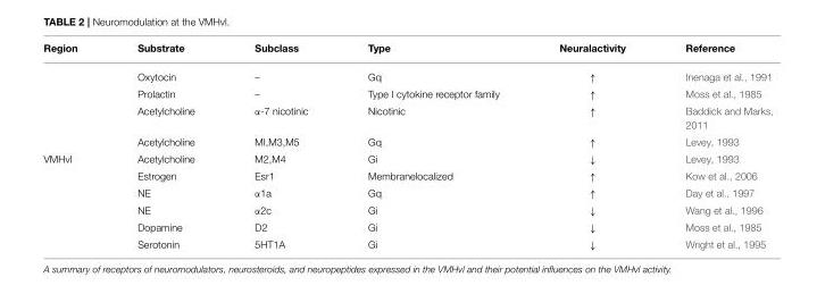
<table><thead><tr><td>Region</td><td>Substrate</td><td>Subclass</td><td>Type</td><td>Neuralactivity</td><td>Reference</td></tr></thead><tbody><tr><td></td><td>Oxytocin</td><td>–</td><td>Gq</td><td>↑</td><td>Inenaga et al., 1991</td></tr><tr><td></td><td>Prolactin</td><td>–</td><td>Type I cytokine receptor family</td><td>↑</td><td>Moss et al., 1985</td></tr><tr><td></td><td>Acetylcholine</td><td>α-7 nicotinic</td><td>Nicotinic</td><td>↑</td><td>Baddick and Marks, 2011</td></tr><tr><td></td><td>Acetylcholine</td><td>MI,M3,M5</td><td>Gq</td><td>↑</td><td>Levey, 1993</td></tr><tr><td rowspan="6">VMHvl</td><td>Acetylcholine</td><td>M2,M4</td><td>Gi</td><td>↓</td><td>Levey, 1993</td></tr><tr><td>Estrogen</td><td>Esr1</td><td>Membranelocalized</td><td>↑</td><td>Kow et al., 2006</td></tr><tr><td>NE</td><td>α1a</td><td>Gq</td><td>↑</td><td>Day et al., 1997</td></tr><tr><td>NE</td><td>α2c</td><td>Gi</td><td>↓</td><td>Wang et al., 1996</td></tr><tr><td>Dopamine</td><td>D2</td><td>Gi</td><td>↓</td><td>Moss et al., 1985</td></tr><tr><td>Serotonin</td><td>5HT1A</td><td>Gi</td><td>↓</td><td>Wright et al., 1995</td></tr></tbody></table>